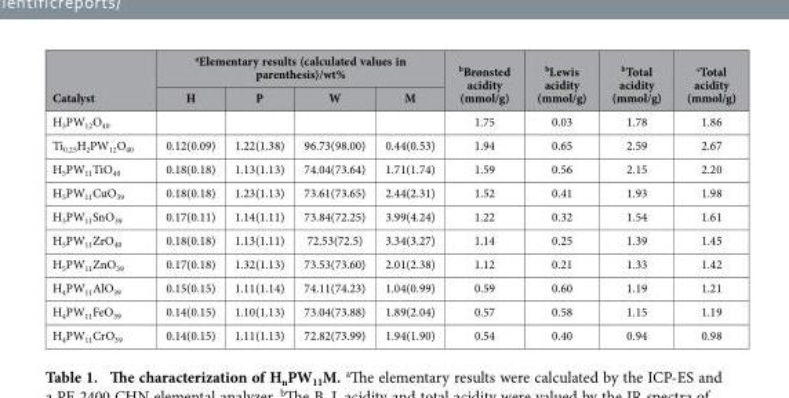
<table><thead><tr><td rowspan="2">Catalyst</td><td colspan="4"><sup>a</sup>Elementary results (calculated values in parenthesis)/wt%</td><td rowspan="2"><sup>b</sup>Brønsted acidity (mmol/g)</td><td rowspan="2"><sup>b</sup>Lewis acidity (mmol/g)</td><td rowspan="2"><sup>b</sup>Total acidity (mmol/g)</td><td rowspan="2"><sup>c</sup>Total acidity (mmol/g)</td></tr><tr><td>H</td><td>P</td><td>W</td><td>M</td></tr></thead><tbody><tr><td>H<sub>3</sub>PW<sub>12</sub>O<sub>40</sub></td><td></td><td></td><td></td><td></td><td>1.75</td><td>0.03</td><td>1.78</td><td>1.86</td></tr><tr><td>Ti<sub>0.25</sub>H<sub>2</sub>PW<sub>12</sub>O<sub>40</sub></td><td>0.12(0.09)</td><td>1.22(1.38)</td><td>96.73(98.00)</td><td>0.44(0.53)</td><td>1.94</td><td>0.65</td><td>2.59</td><td>2.67</td></tr><tr><td>H<sub>5</sub>PW<sub>11</sub>TiO<sub>40</sub></td><td>0.18(0.18)</td><td>1.13(1.13)</td><td>74.04(73.64)</td><td>1.71(1.74)</td><td>1.59</td><td>0.56</td><td>2.15</td><td>2.20</td></tr><tr><td>H<sub>5</sub>PW<sub>11</sub>CuO<sub>39</sub></td><td>0.18(0.18)</td><td>1.23(1.13)</td><td>73.61(73.65)</td><td>2.44(2.31)</td><td>1.52</td><td>0.41</td><td>1.93</td><td>1.98</td></tr><tr><td>H<sub>3</sub>PW<sub>11</sub>SnO<sub>39</sub></td><td>0.17(0.11)</td><td>1.14(1.11)</td><td>73.84(72.25)</td><td>3.99(4.24)</td><td>1.22</td><td>0.32</td><td>1.54</td><td>1.61</td></tr><tr><td>H<sub>5</sub>PW<sub>11</sub>ZrO<sub>40</sub></td><td>0.18(0.18)</td><td>1.13(1.11)</td><td>72.53(72.5)</td><td>3.34(3.27)</td><td>1.14</td><td>0.25</td><td>1.39</td><td>1.45</td></tr><tr><td>H<sub>5</sub>PW<sub>11</sub>ZnO<sub>39</sub></td><td>0.17(0.18)</td><td>1.32(1.13)</td><td>73.53(73.60)</td><td>2.01(2.38)</td><td>1.12</td><td>0.21</td><td>1.33</td><td>1.42</td></tr><tr><td>H<sub>4</sub>PW<sub>11</sub>AlO<sub>39</sub></td><td>0.15(0.15)</td><td>1.11(1.14)</td><td>74.11(74.23)</td><td>1.04(0.99)</td><td>0.59</td><td>0.60</td><td>1.19</td><td>1.21</td></tr><tr><td>H<sub>4</sub>PW<sub>11</sub>FeO<sub>39</sub></td><td>0.14(0.15)</td><td>1.10(1.13)</td><td>73.04(73.88)</td><td>1.89(2.04)</td><td>0.57</td><td>0.58</td><td>1.15</td><td>1.19</td></tr><tr><td>H<sub>4</sub>PW<sub>11</sub>CrO<sub>39</sub></td><td>0.14(0.15)</td><td>1.11(1.13)</td><td>72.82(73.99)</td><td>1.94(1.90)</td><td>0.54</td><td>0.40</td><td>0.94</td><td>0.98</td></tr></tbody></table>